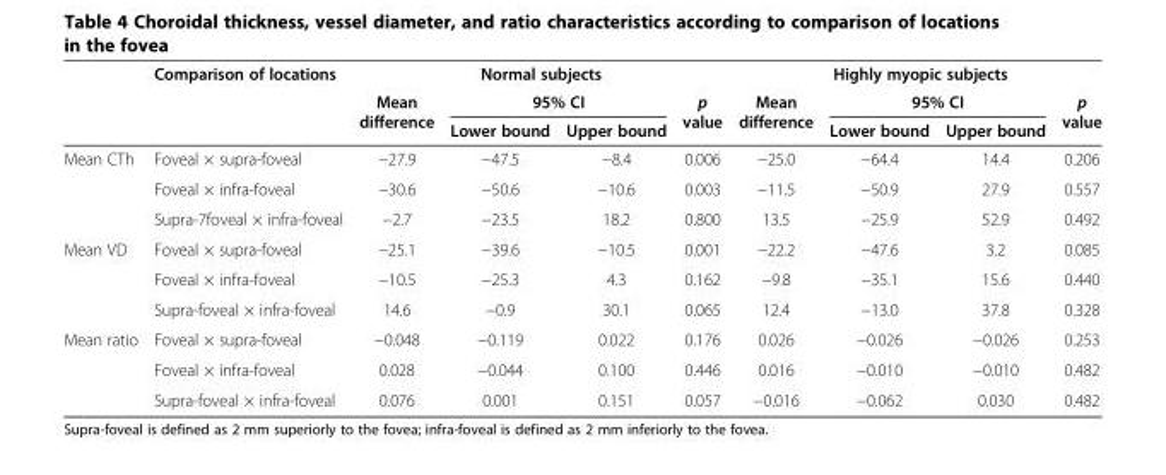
<table><thead><tr><td rowspan="3"></td><td rowspan="3">Comparison of locations</td><td colspan="4">Normal subjects</td><td colspan="4">Highly myopic subjects</td></tr><tr><td rowspan="2">Mean difference</td><td colspan="2">95% CI</td><td rowspan="2">p value</td><td rowspan="2">Mean difference</td><td colspan="2">95% CI</td><td rowspan="2">p value</td></tr><tr><td>Lower bound</td><td>Upper bound</td><td>Lower bound</td><td>Upper bound</td></tr></thead><tbody><tr><td rowspan="3">Mean CTh</td><td>Foveal × supra-foveal</td><td>−27.9</td><td>−47.5</td><td>−8.4</td><td>0.006</td><td>−25.0</td><td>−64.4</td><td>14.4</td><td>0.206</td></tr><tr><td>Foveal × infra-foveal</td><td>−30.6</td><td>−50.6</td><td>−10.6</td><td>0.003</td><td>−11.5</td><td>−50.9</td><td>27.9</td><td>0.557</td></tr><tr><td>Supra-7foveal × infra-foveal</td><td>−2.7</td><td>−23.5</td><td>18.2</td><td>0.800</td><td>13.5</td><td>−25.9</td><td>52.9</td><td>0.492</td></tr><tr><td rowspan="3">Mean VD</td><td>Foveal × supra-foveal</td><td>−25.1</td><td>−39.6</td><td>−10.5</td><td>0.001</td><td>−22.2</td><td>−47.6</td><td>3.2</td><td>0.085</td></tr><tr><td>Foveal × infra-foveal</td><td>−10.5</td><td>−25.3</td><td>4.3</td><td>0.162</td><td>−9.8</td><td>−35.1</td><td>15.6</td><td>0.440</td></tr><tr><td>Supra-foveal × infra-foveal</td><td>14.6</td><td>−0.9</td><td>30.1</td><td>0.065</td><td>12.4</td><td>−13.0</td><td>37.8</td><td>0.328</td></tr><tr><td rowspan="3">Mean ratio</td><td>Foveal × supra-foveal</td><td>−0.048</td><td>−0.119</td><td>0.022</td><td>0.176</td><td>0.026</td><td>−0.026</td><td>−0.026</td><td>0.253</td></tr><tr><td>Foveal × infra-foveal</td><td>0.028</td><td>−0.044</td><td>0.100</td><td>0.446</td><td>0.016</td><td>−0.010</td><td>−0.010</td><td>0.482</td></tr><tr><td>Supra-foveal × infra-foveal</td><td>0.076</td><td>0.001</td><td>0.151</td><td>0.057</td><td>−0.016</td><td>−0.062</td><td>0.030</td><td>0.482</td></tr></tbody></table>